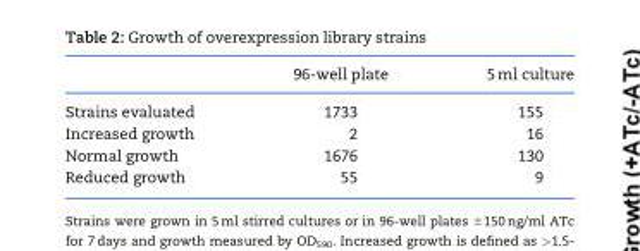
<table><thead><tr><td></td><td>96-well plate</td><td>5 ml culture</td></tr></thead><tbody><tr><td>Strains evaluated</td><td>1733</td><td>155</td></tr><tr><td>Increased growth</td><td>2</td><td>16</td></tr><tr><td>Normal growth</td><td>1676</td><td>130</td></tr><tr><td>Reduced growth</td><td>55</td><td>9</td></tr></tbody></table>